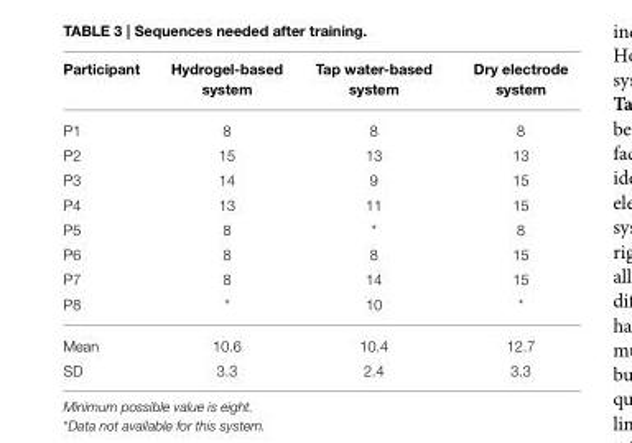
<table><thead><tr><td>Participant</td><td>Hydrogel-based system</td><td>Tap water-based system</td><td>Dry electrode system</td></tr></thead><tbody><tr><td>P1</td><td>8</td><td>8</td><td>8</td></tr><tr><td>P2</td><td>15</td><td>13</td><td>13</td></tr><tr><td>P3</td><td>14</td><td>9</td><td>15</td></tr><tr><td>P4</td><td>13</td><td>11</td><td>15</td></tr><tr><td>P5</td><td>8</td><td>*</td><td>8</td></tr><tr><td>P6</td><td>8</td><td>8</td><td>15</td></tr><tr><td>P7</td><td>8</td><td>14</td><td>15</td></tr><tr><td>P8</td><td>*</td><td>10</td><td>*</td></tr><tr><td>Mean</td><td>10.6</td><td>10.4</td><td>12.7</td></tr><tr><td>SD</td><td>3.3</td><td>2.4</td><td>3.3</td></tr></tbody></table>